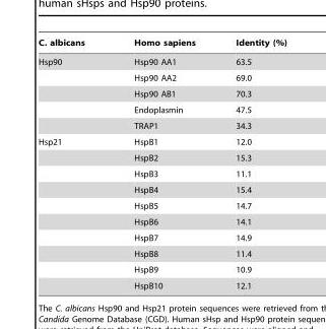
<table><thead><tr><td>C. albicans</td><td>Homo sapiens</td><td>Identity (%)</td></tr></thead><tbody><tr><td rowspan="5">Hsp90</td><td>Hsp90 AA1</td><td>63.5</td></tr><tr><td>Hsp90 AA2</td><td>69.0</td></tr><tr><td>Hsp90 AB1</td><td>70.3</td></tr><tr><td>Endoplasmin</td><td>47.5</td></tr><tr><td>TRAP1</td><td>34.3</td></tr><tr><td rowspan="10">Hsp21</td><td>HspB1</td><td>12.0</td></tr><tr><td>HspB2</td><td>15.3</td></tr><tr><td>HspB3</td><td>11.1</td></tr><tr><td>HspB4</td><td>15.4</td></tr><tr><td>HspB5</td><td>14.7</td></tr><tr><td>HspB6</td><td>14.1</td></tr><tr><td>HspB7</td><td>14.9</td></tr><tr><td>HspB8</td><td>11.4</td></tr><tr><td>HspB9</td><td>10.9</td></tr><tr><td>HspB10</td><td>12.1</td></tr></tbody></table>